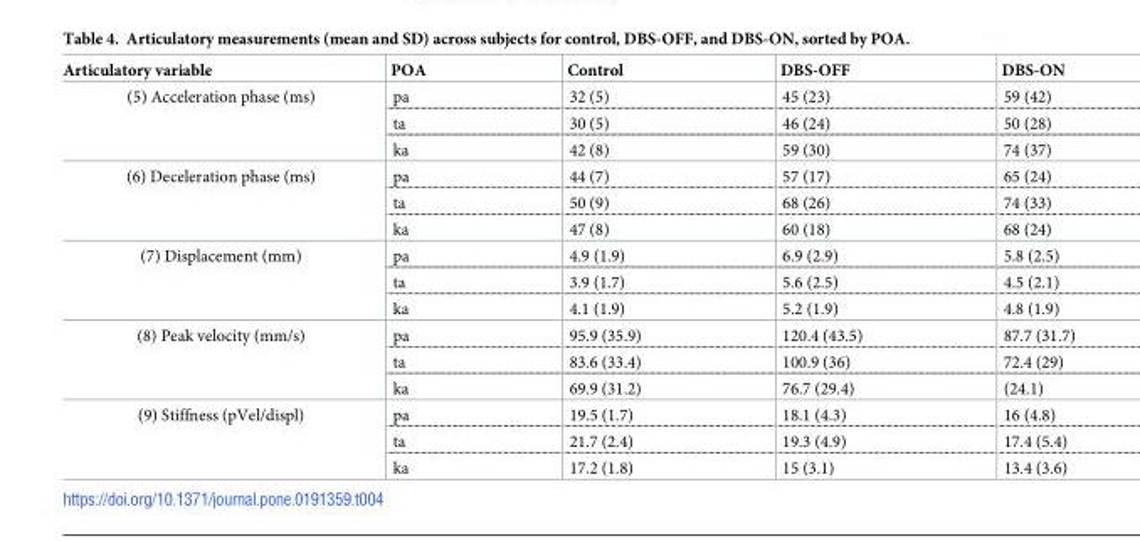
<table><thead><tr><td>Articulatory variable</td><td>POA</td><td>Control</td><td>DBS-OFF</td><td>DBS-ON</td></tr></thead><tbody><tr><td rowspan="3">(5) Acceleration phase (ms)</td><td>pa</td><td>32 (5)</td><td>45 (23)</td><td>59 (42)</td></tr><tr><td>ta</td><td>30 (5)</td><td>46 (24)</td><td>50 (28)</td></tr><tr><td>ka</td><td>42 (8)</td><td>59 (30)</td><td>74 (37)</td></tr><tr><td rowspan="3">(6) Deceleration phase (ms)</td><td>pa</td><td>44 (7)</td><td>57 (17)</td><td>65 (24)</td></tr><tr><td>ta</td><td>50 (9)</td><td>68 (26)</td><td>74 (33)</td></tr><tr><td>ka</td><td>47 (8)</td><td>60 (18)</td><td>68 (24)</td></tr><tr><td rowspan="3">(7) Displacement (mm)</td><td>pa</td><td>4.9 (1.9)</td><td>6.9 (2.9)</td><td>5.8 (2.5)</td></tr><tr><td>ta</td><td>3.9 (1.7)</td><td>5.6 (2.5)</td><td>4.5 (2.1)</td></tr><tr><td>ka</td><td>4.1 (1.9)</td><td>5.2 (1.9)</td><td>4.8 (1.9)</td></tr><tr><td rowspan="3">(8) Peak velocity (mm/s)</td><td>pa</td><td>95.9 (35.9)</td><td>120.4 (43.5)</td><td>87.7 (31.7)</td></tr><tr><td>ta</td><td>83.6 (33.4)</td><td>100.9 (36)</td><td>72.4 (29)</td></tr><tr><td>ka</td><td>69.9 (31.2)</td><td>76.7 (29.4)</td><td>(24.1)</td></tr><tr><td rowspan="3">(9) Stiffness (pVel/displ)</td><td>pa</td><td>19.5 (1.7)</td><td>18.1 (4.3)</td><td>16 (4.8)</td></tr><tr><td>ta</td><td>21.7 (2.4)</td><td>19.3 (4.9)</td><td>17.4 (5.4)</td></tr><tr><td>ka</td><td>17.2 (1.8)</td><td>15 (3.1)</td><td>13.4 (3.6)</td></tr></tbody></table>